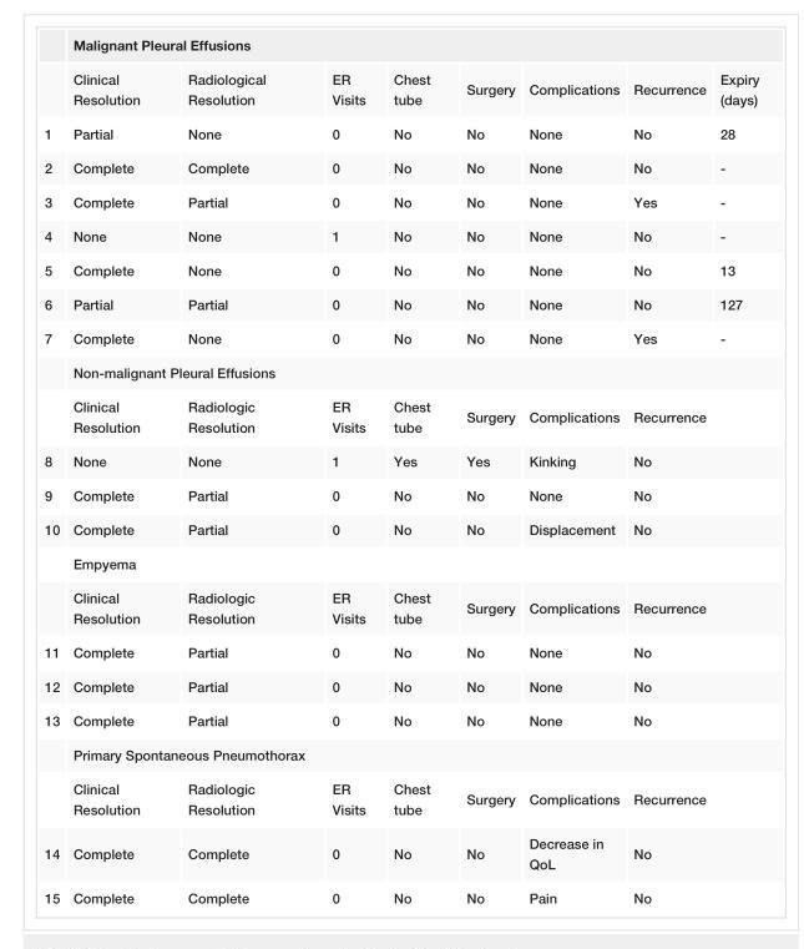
<table><thead><tr><td rowspan="2"></td><td colspan="8">Malignant Pleural Effusions</td></tr><tr><td>Clinical Resolution</td><td>Radiological Resolution</td><td>ER Visits</td><td>Chest tube</td><td>Surgery</td><td>Complications</td><td>Recurrence</td><td>Expiry (days)</td></tr></thead><tbody><tr><td>1</td><td>Partial</td><td>None</td><td>0</td><td>No</td><td>No</td><td>None</td><td>No</td><td>28</td></tr><tr><td>2</td><td>Complete</td><td>Complete</td><td>0</td><td>No</td><td>No</td><td>None</td><td>No</td><td>-</td></tr><tr><td>3</td><td>Complete</td><td>Partial</td><td>0</td><td>No</td><td>No</td><td>None</td><td>Yes</td><td>-</td></tr><tr><td>4</td><td>None</td><td>None</td><td>1</td><td>No</td><td>No</td><td>None</td><td>No</td><td>-</td></tr><tr><td>5</td><td>Complete</td><td>None</td><td>0</td><td>No</td><td>No</td><td>None</td><td>No</td><td>13</td></tr><tr><td>6</td><td>Partial</td><td>Partial</td><td>0</td><td>No</td><td>No</td><td>None</td><td>No</td><td>127</td></tr><tr><td rowspan="3">7</td><td>Complete</td><td>None</td><td>0</td><td>No</td><td>No</td><td>None</td><td>Yes</td><td>-</td></tr><tr><td colspan="8">Non-malignant Pleural Effusions</td></tr><tr><td>Clinical Resolution</td><td>Radiologic Resolution</td><td>ER Visits</td><td>Chest tube</td><td>Surgery</td><td>Complications</td><td colspan="2">Recurrence</td></tr><tr><td>8</td><td>None</td><td>None</td><td>1</td><td>Yes</td><td>Yes</td><td>Kinking</td><td colspan="2">No</td></tr><tr><td>9</td><td>Complete</td><td>Partial</td><td>0</td><td>No</td><td>No</td><td>None</td><td colspan="2">No</td></tr><tr><td rowspan="3">10</td><td>Complete</td><td>Partial</td><td>0</td><td>No</td><td>No</td><td>Displacement</td><td colspan="2">No</td></tr><tr><td colspan="8">Empyema</td></tr><tr><td>Clinical Resolution</td><td>Radiologic Resolution</td><td>ER Visits</td><td>Chest tube</td><td>Surgery</td><td>Complications</td><td colspan="2">Recurrence</td></tr><tr><td>11</td><td>Complete</td><td>Partial</td><td>0</td><td>No</td><td>No</td><td>None</td><td colspan="2">No</td></tr><tr><td>12</td><td>Complete</td><td>Partial</td><td>0</td><td>No</td><td>No</td><td>None</td><td colspan="2">No</td></tr><tr><td rowspan="3">13</td><td>Complete</td><td>Partial</td><td>0</td><td>No</td><td>No</td><td>None</td><td colspan="2">No</td></tr><tr><td colspan="8">Primary Spontaneous Pneumothorax</td></tr><tr><td>Clinical Resolution</td><td>Radiologic Resolution</td><td>ER Visits</td><td>Chest tube</td><td>Surgery</td><td>Complications</td><td colspan="2">Recurrence</td></tr><tr><td>14</td><td>Complete</td><td>Complete</td><td>0</td><td>No</td><td>No</td><td>Decrease in QoL</td><td colspan="2">No</td></tr><tr><td>15</td><td>Complete</td><td>Complete</td><td>0</td><td>No</td><td>No</td><td>Pain</td><td colspan="2">No</td></tr></tbody></table>